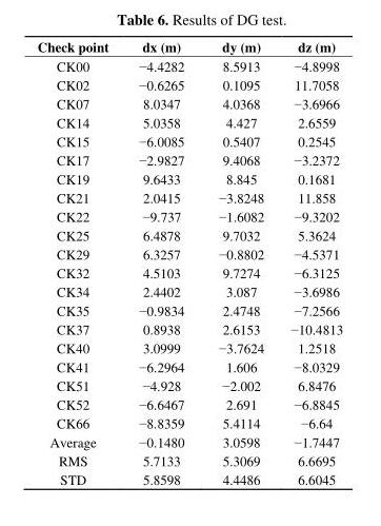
<table><thead><tr><td>Check point</td><td>dx (m)</td><td>dy (m)</td><td>dz (m)</td></tr></thead><tbody><tr><td>CK00</td><td>−4.4282</td><td>8.5913</td><td>−4.8998</td></tr><tr><td>CK02</td><td>−0.6265</td><td>0.1095</td><td>11.7058</td></tr><tr><td>CK07</td><td>8.0347</td><td>4.0368</td><td>−3.6966</td></tr><tr><td>CK14</td><td>5.0358</td><td>4.427</td><td>2.6559</td></tr><tr><td>CK15</td><td>−6.0085</td><td>0.5407</td><td>0.2545</td></tr><tr><td>CK17</td><td>−2.9827</td><td>9.4068</td><td>−3.2372</td></tr><tr><td>CK19</td><td>9.6433</td><td>8.845</td><td>0.1681</td></tr><tr><td>CK21</td><td>2.0415</td><td>−3.8248</td><td>11.858</td></tr><tr><td>CK22</td><td>−9.737</td><td>−1.6082</td><td>−9.3202</td></tr><tr><td>CK25</td><td>6.4878</td><td>9.7032</td><td>5.3624</td></tr><tr><td>CK29</td><td>6.3257</td><td>−0.8802</td><td>−4.5371</td></tr><tr><td>CK32</td><td>4.5103</td><td>9.7274</td><td>−6.3125</td></tr><tr><td>CK34</td><td>2.4402</td><td>3.087</td><td>−3.6986</td></tr><tr><td>CK35</td><td>−0.9834</td><td>2.4748</td><td>−7.2566</td></tr><tr><td>CK37</td><td>0.8938</td><td>2.6153</td><td>−10.4813</td></tr><tr><td>CK40</td><td>3.0999</td><td>−3.7624</td><td>1.2518</td></tr><tr><td>CK41</td><td>−6.2964</td><td>1.606</td><td>−8.0329</td></tr><tr><td>CK51</td><td>−4.928</td><td>−2.002</td><td>6.8476</td></tr><tr><td>CK52</td><td>−6.6467</td><td>2.691</td><td>−6.8845</td></tr><tr><td>CK66</td><td>−8.8359</td><td>5.4114</td><td>−6.64</td></tr><tr><td>Average</td><td>−0.1480</td><td>3.0598</td><td>−1.7447</td></tr><tr><td>RMS</td><td>5.7133</td><td>5.3069</td><td>6.6695</td></tr><tr><td>STD</td><td>5.8598</td><td>4.4486</td><td>6.6045</td></tr></tbody></table>